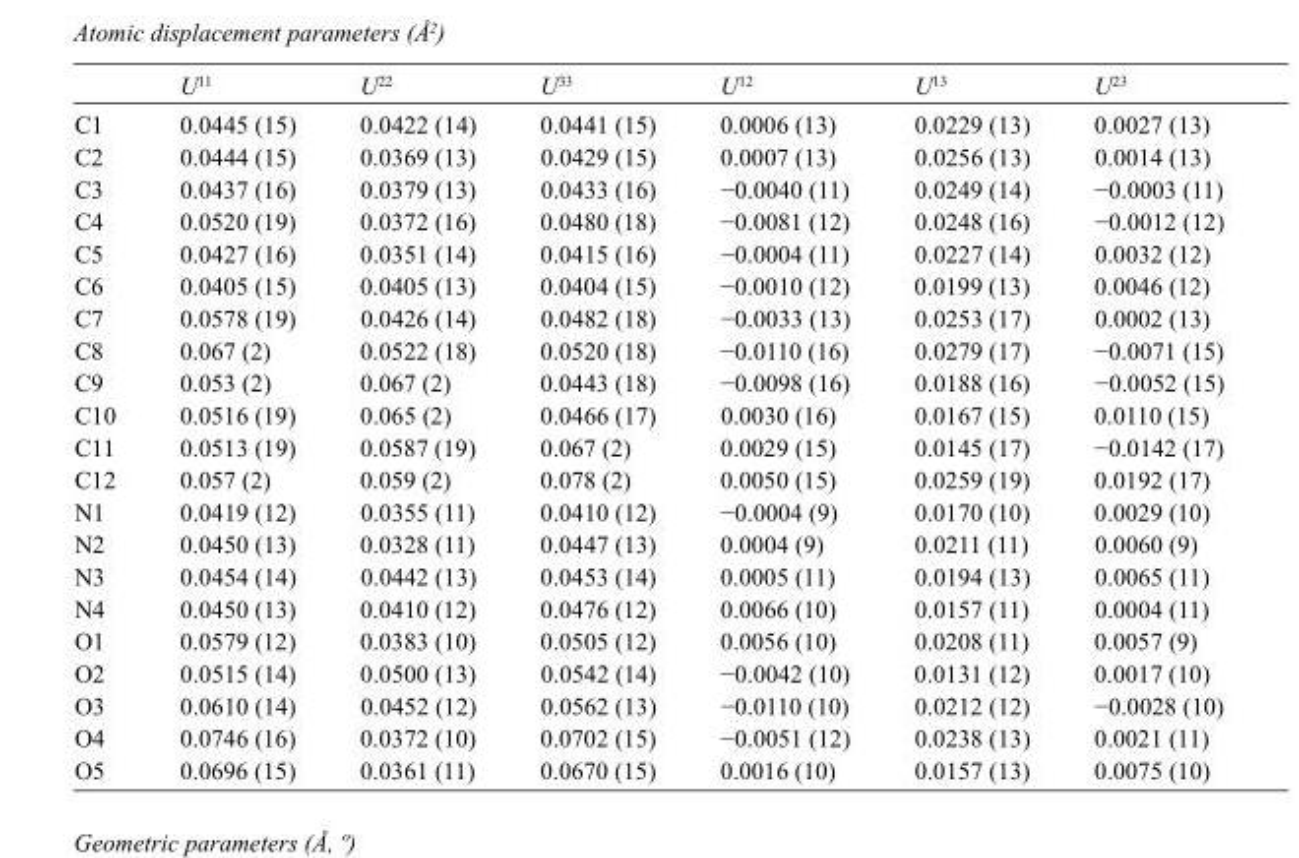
<table><thead><tr><td></td><td>U<sup>11</sup></td><td>U<sup>22</sup></td><td>U<sup>33</sup></td><td>U<sup>12</sup></td><td>U<sup>13</sup></td><td>U<sup>23</sup></td></tr></thead><tbody><tr><td>C1</td><td>0.0445 (15)</td><td>0.0422 (14)</td><td>0.0441 (15)</td><td>0.0006 (13)</td><td>0.0229 (13)</td><td>0.0027 (13)</td></tr><tr><td>C2</td><td>0.0444 (15)</td><td>0.0369 (13)</td><td>0.0429 (15)</td><td>0.0007 (13)</td><td>0.0256 (13)</td><td>0.0014 (13)</td></tr><tr><td>C3</td><td>0.0437 (16)</td><td>0.0379 (13)</td><td>0.0433 (16)</td><td>−0.0040 (11)</td><td>0.0249 (14)</td><td>−0.0003 (11)</td></tr><tr><td>C4</td><td>0.0520 (19)</td><td>0.0372 (16)</td><td>0.0480 (18)</td><td>−0.0081 (12)</td><td>0.0248 (16)</td><td>−0.0012 (12)</td></tr><tr><td>C5</td><td>0.0427 (16)</td><td>0.0351 (14)</td><td>0.0415 (16)</td><td>−0.0004 (11)</td><td>0.0227 (14)</td><td>0.0032 (12)</td></tr><tr><td>C6</td><td>0.0405 (15)</td><td>0.0405 (13)</td><td>0.0404 (15)</td><td>−0.0010 (12)</td><td>0.0199 (13)</td><td>0.0046 (12)</td></tr><tr><td>C7</td><td>0.0578 (19)</td><td>0.0426 (14)</td><td>0.0482 (18)</td><td>−0.0033 (13)</td><td>0.0253 (17)</td><td>0.0002 (13)</td></tr><tr><td>C8</td><td>0.067 (2)</td><td>0.0522 (18)</td><td>0.0520 (18)</td><td>−0.0110 (16)</td><td>0.0279 (17)</td><td>−0.0071 (15)</td></tr><tr><td>C9</td><td>0.053 (2)</td><td>0.067 (2)</td><td>0.0443 (18)</td><td>−0.0098 (16)</td><td>0.0188 (16)</td><td>−0.0052 (15)</td></tr><tr><td>C10</td><td>0.0516 (19)</td><td>0.065 (2)</td><td>0.0466 (17)</td><td>0.0030 (16)</td><td>0.0167 (15)</td><td>0.0110 (15)</td></tr><tr><td>C11</td><td>0.0513 (19)</td><td>0.0587 (19)</td><td>0.067 (2)</td><td>0.0029 (15)</td><td>0.0145 (17)</td><td>−0.0142 (17)</td></tr><tr><td>C12</td><td>0.057 (2)</td><td>0.059 (2)</td><td>0.078 (2)</td><td>0.0050 (15)</td><td>0.0259 (19)</td><td>0.0192 (17)</td></tr><tr><td>N1</td><td>0.0419 (12)</td><td>0.0355 (11)</td><td>0.0410 (12)</td><td>−0.0004 (9)</td><td>0.0170 (10)</td><td>0.0029 (10)</td></tr><tr><td>N2</td><td>0.0450 (13)</td><td>0.0328 (11)</td><td>0.0447 (13)</td><td>0.0004 (9)</td><td>0.0211 (11)</td><td>0.0060 (9)</td></tr><tr><td>N3</td><td>0.0454 (14)</td><td>0.0442 (13)</td><td>0.0453 (14)</td><td>0.0005 (11)</td><td>0.0194 (13)</td><td>0.0065 (11)</td></tr><tr><td>N4</td><td>0.0450 (13)</td><td>0.0410 (12)</td><td>0.0476 (12)</td><td>0.0066 (10)</td><td>0.0157 (11)</td><td>0.0004 (11)</td></tr><tr><td>O1</td><td>0.0579 (12)</td><td>0.0383 (10)</td><td>0.0505 (12)</td><td>0.0056 (10)</td><td>0.0208 (11)</td><td>0.0057 (9)</td></tr><tr><td>O2</td><td>0.0515 (14)</td><td>0.0500 (13)</td><td>0.0542 (14)</td><td>−0.0042 (10)</td><td>0.0131 (12)</td><td>0.0017 (10)</td></tr><tr><td>O3</td><td>0.0610 (14)</td><td>0.0452 (12)</td><td>0.0562 (13)</td><td>−0.0110 (10)</td><td>0.0212 (12)</td><td>−0.0028 (10)</td></tr><tr><td>O4</td><td>0.0746 (16)</td><td>0.0372 (10)</td><td>0.0702 (15)</td><td>−0.0051 (12)</td><td>0.0238 (13)</td><td>0.0021 (11)</td></tr><tr><td>O5</td><td>0.0696 (15)</td><td>0.0361 (11)</td><td>0.0670 (15)</td><td>0.0016 (10)</td><td>0.0157 (13)</td><td>0.0075 (10)</td></tr></tbody></table>